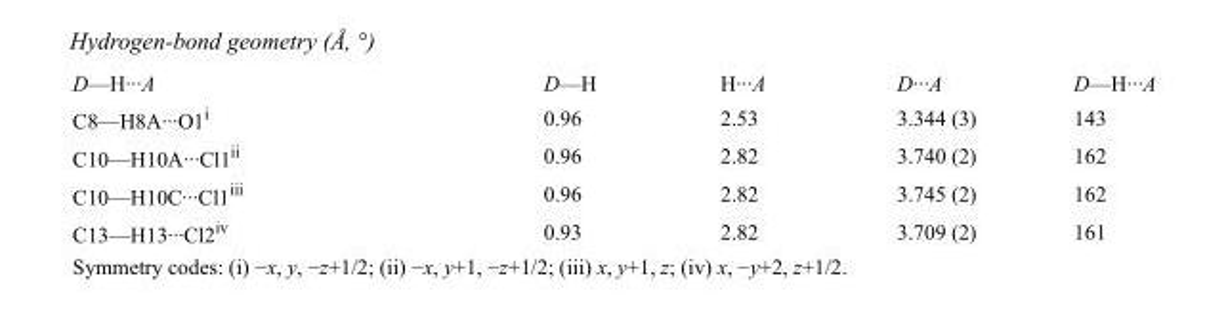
<table><tbody><tr><td>D—H···A</td><td>D—H</td><td>H···A</td><td>D···A</td><td>D—H···A</td></tr><tr><td>C8—H8A···O1<sup>i</sup></td><td>0.96</td><td>2.53</td><td>3.344 (3)</td><td>143</td></tr><tr><td>C10—H10A···Cl1<sup>ii</sup></td><td>0.96</td><td>2.82</td><td>3.740 (2)</td><td>162</td></tr><tr><td>C10—H10C···Cl1<sup>iii</sup></td><td>0.96</td><td>2.82</td><td>3.745 (2)</td><td>162</td></tr><tr><td>C13—H13···Cl2<sup>iv</sup></td><td>0.93</td><td>2.82</td><td>3.709 (2)</td><td>161</td></tr></tbody></table>